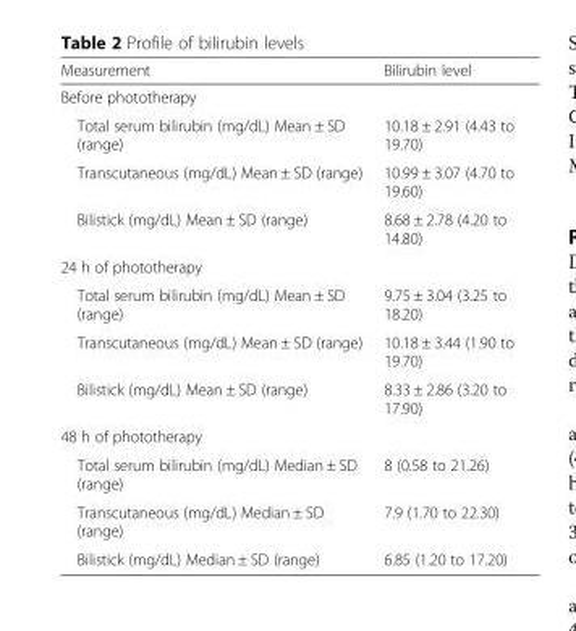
<table><thead><tr><td>Measurement</td><td>Bilirubin level</td></tr></thead><tbody><tr><td colspan="2">Before phototherapy</td></tr><tr><td>Total serum bilirubin (mg/dL) Mean ± SD (range)</td><td>10.18 ± 2.91 (4.43 to 19.70)</td></tr><tr><td>Transcutaneous (mg/dL) Mean ± SD (range)</td><td>10.99 ± 3.07 (4.70 to 19.60)</td></tr><tr><td>Bilistick (mg/dL) Mean ± SD (range)</td><td>8.68 ± 2.78 (4.20 to 14.80)</td></tr><tr><td colspan="2">24 h of phototherapy</td></tr><tr><td>Total serum bilirubin (mg/dL) Mean ± SD (range)</td><td>9.75 ± 3.04 (3.25 to 18.20)</td></tr><tr><td>Transcutaneous (mg/dL) Mean ± SD (range)</td><td>10.18 ± 3.44 (1.90 to 19.70)</td></tr><tr><td>Bilistick (mg/dL) Mean ± SD (range)</td><td>8.33 ± 2.86 (3.20 to 17.90)</td></tr><tr><td colspan="2">48 h of phototherapy</td></tr><tr><td>Total serum bilirubin (mg/dL) Median ± SD (range)</td><td>8 (0.58 to 21.26)</td></tr><tr><td>Transcutaneous (mg/dL) Median ± SD (range)</td><td>7.9 (1.70 to 22.30)</td></tr><tr><td>Bilistick (mg/dL) Median ± SD (range)</td><td>6.85 (1.20 to 17.20)</td></tr></tbody></table>